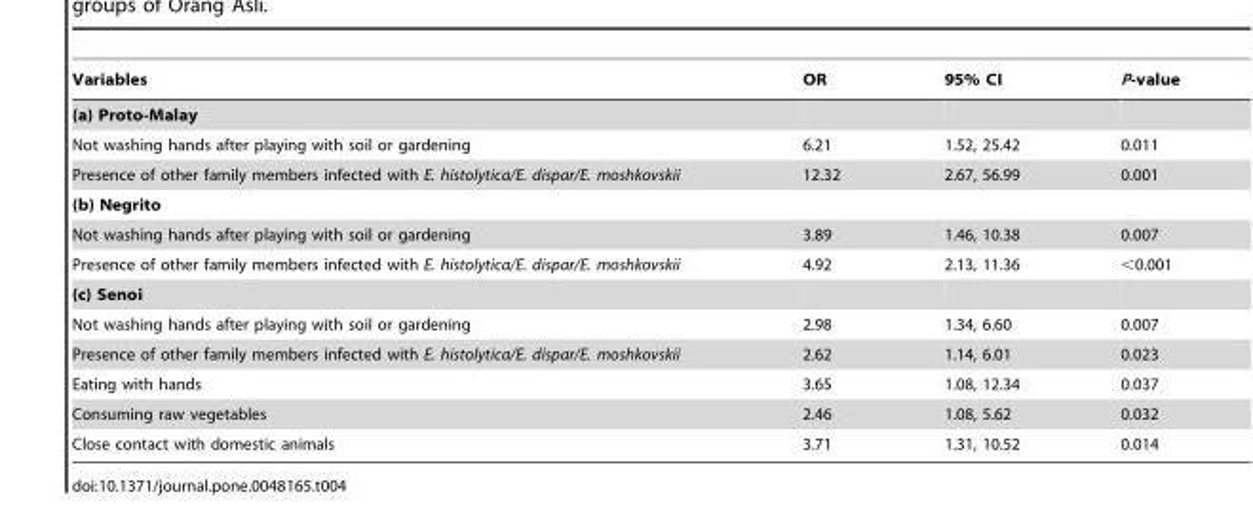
<table><thead><tr><td>Variables</td><td>OR</td><td>95% CI</td><td>P-value</td></tr></thead><tbody><tr><td colspan="4">(a) Proto-Malay</td></tr><tr><td>Not washing hands after playing with soil or gardening</td><td>6.21</td><td>1.52, 25.42</td><td>0.011</td></tr><tr><td>Presence of other family members infected with E. histolytica/E. dispar/E. moshkovskii</td><td>12.32</td><td>2.67, 56.99</td><td>0.001</td></tr><tr><td colspan="4">(b) Negrito</td></tr><tr><td>Not washing hands after playing with soil or gardening</td><td>3.89</td><td>1.46, 10.38</td><td>0.007</td></tr><tr><td>Presence of other family members infected with E. histolytica/E. dispar/E. moshkovskii</td><td>4.92</td><td>2.13, 11.36</td><td>&lt;0.001</td></tr><tr><td colspan="4">(c) Senoi</td></tr><tr><td>Not washing hands after playing with soil or gardening</td><td>2.98</td><td>1.34, 6.60</td><td>0.007</td></tr><tr><td>Presence of other family members infected with E. histolytica/E. dispar/E. moshkovskii</td><td>2.62</td><td>1.14, 6.01</td><td>0.023</td></tr><tr><td>Eating with hands</td><td>3.65</td><td>1.08, 12.34</td><td>0.037</td></tr><tr><td>Consuming raw vegetables</td><td>2.46</td><td>1.08, 5.62</td><td>0.032</td></tr><tr><td>Close contact with domestic animals</td><td>3.71</td><td>1.31, 10.52</td><td>0.014</td></tr></tbody></table>